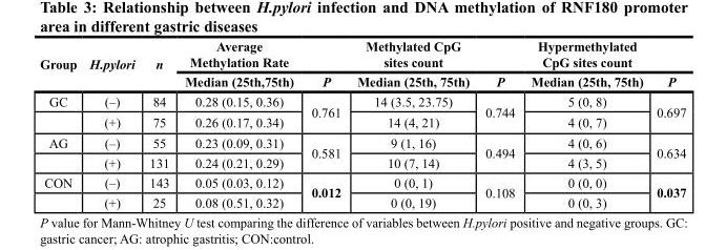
<table><thead><tr><td rowspan="2">Group</td><td rowspan="2">H.pylori</td><td rowspan="2">n</td><td rowspan="2">Average Methylation Rate Median (25th,75th)</td><td rowspan="2">P</td><td rowspan="2">Methylated CpG sites count Median (25th, 75th)</td><td rowspan="2">P</td><td rowspan="2">Hypermethylated CpG sites count Median (25th, 75th)</td><td rowspan="2">P</td></tr><tr></tr></thead><tbody><tr><td rowspan="2">GC</td><td>(–)</td><td>84</td><td>0.28 (0.15, 0.36)</td><td rowspan="2">0.761</td><td>14 (3.5, 23.75)</td><td rowspan="2">0.744</td><td>5 (0, 8)</td><td rowspan="2">0.697</td></tr><tr><td>(+)</td><td>75</td><td>0.26 (0.17, 0.34)</td><td>14 (4, 21)</td><td>4 (0, 7)</td></tr><tr><td rowspan="2">AG</td><td>(–)</td><td>55</td><td>0.23 (0.09, 0.31)</td><td rowspan="2">0.581</td><td>9 (1, 16)</td><td rowspan="2">0.494</td><td>4 (0, 6)</td><td rowspan="2">0.634</td></tr><tr><td>(+)</td><td>131</td><td>0.24 (0.21, 0.29)</td><td>10 (7, 14)</td><td>4 (3, 5)</td></tr><tr><td rowspan="2">CON</td><td>(–)</td><td>143</td><td>0.05 (0.03, 0.12)</td><td rowspan="2">0.012</td><td>0 (0, 1)</td><td rowspan="2">0.108</td><td>0 (0, 0)</td><td rowspan="2">0.037</td></tr><tr><td>(+)</td><td>25</td><td>0.08 (0.51, 0.32)</td><td>0 (0, 19)</td><td>0 (0, 3)</td></tr></tbody></table>